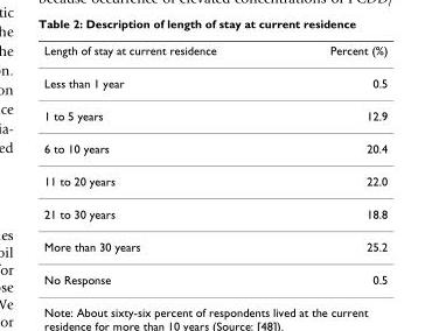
<table><thead><tr><td>Length of stay at current residence</td><td>Percent (%)</td></tr></thead><tbody><tr><td>Less than 1 year</td><td>0.5</td></tr><tr><td>1 to 5 years</td><td>12.9</td></tr><tr><td>6 to 10 years</td><td>20.4</td></tr><tr><td>11 to 20 years</td><td>22.0</td></tr><tr><td>21 to 30 years</td><td>18.8</td></tr><tr><td>More than 30 years</td><td>25.2</td></tr><tr><td>No Response</td><td>0.5</td></tr></tbody></table>